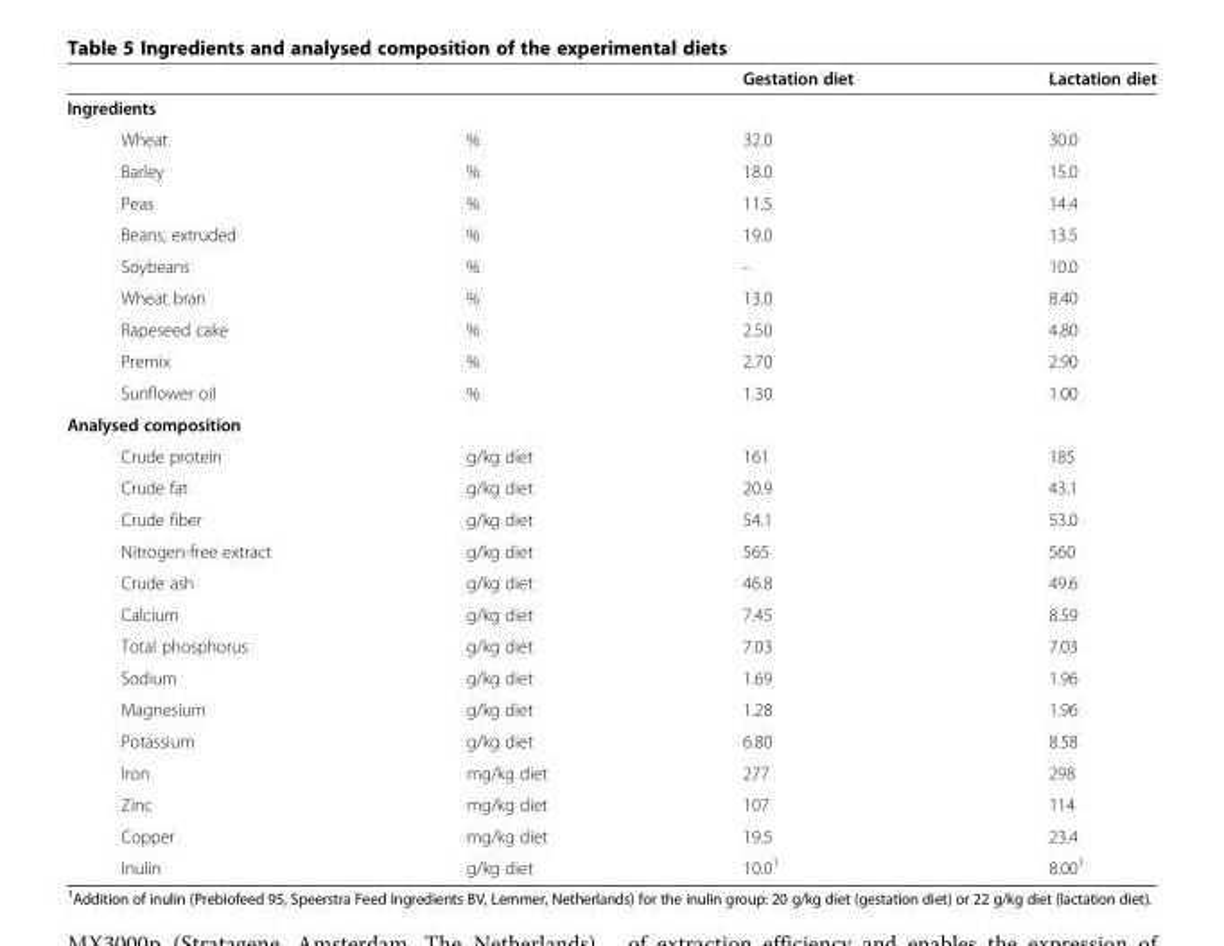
<table><thead><tr><td></td><td></td><td>Gestation diet</td><td>Lactation diet</td></tr></thead><tbody><tr><td colspan="4">Ingredients</td></tr><tr><td>Wheat</td><td>%</td><td>32.0</td><td>30.0</td></tr><tr><td>Barley</td><td>%</td><td>18.0</td><td>15.0</td></tr><tr><td>Peas</td><td>%</td><td>11.5</td><td>14.4</td></tr><tr><td>Beans, extruded</td><td>%</td><td>19.0</td><td>13.5</td></tr><tr><td>Soybeans</td><td>%</td><td>-</td><td>10.0</td></tr><tr><td>Wheat bran</td><td>%</td><td>13.0</td><td>8.40</td></tr><tr><td>Rapeseed cake</td><td>%</td><td>2.50</td><td>4.80</td></tr><tr><td>Premix</td><td>%</td><td>2.70</td><td>2.90</td></tr><tr><td>Sunflower oil</td><td>%</td><td>1.30</td><td>1.00</td></tr><tr><td colspan="4">Analysed composition</td></tr><tr><td>Crude protein</td><td>g/kg diet</td><td>161</td><td>185</td></tr><tr><td>Crude fat</td><td>g/kg diet</td><td>20.9</td><td>43.1</td></tr><tr><td>Crude fiber</td><td>g/kg diet</td><td>54.1</td><td>53.0</td></tr><tr><td>Nitrogen-free extract</td><td>g/kg diet</td><td>565</td><td>560</td></tr><tr><td>Crude ash</td><td>g/kg diet</td><td>46.8</td><td>49.6</td></tr><tr><td>Calcium</td><td>g/kg diet</td><td>7.45</td><td>8.59</td></tr><tr><td>Total phosphorus</td><td>g/kg diet</td><td>7.03</td><td>7.03</td></tr><tr><td>Sodium</td><td>g/kg diet</td><td>1.69</td><td>1.96</td></tr><tr><td>Magnesium</td><td>g/kg diet</td><td>1.28</td><td>1.96</td></tr><tr><td>Potassium</td><td>g/kg diet</td><td>6.80</td><td>8.58</td></tr><tr><td>Iron</td><td>mg/kg diet</td><td>277</td><td>298</td></tr><tr><td>Zinc</td><td>mg/kg diet</td><td>107</td><td>114</td></tr><tr><td>Copper</td><td>mg/kg diet</td><td>19.5</td><td>23.4</td></tr><tr><td>Inulin</td><td>g/kg diet</td><td>10.0<sup>1</sup></td><td>8.00<sup>1</sup></td></tr></tbody></table>